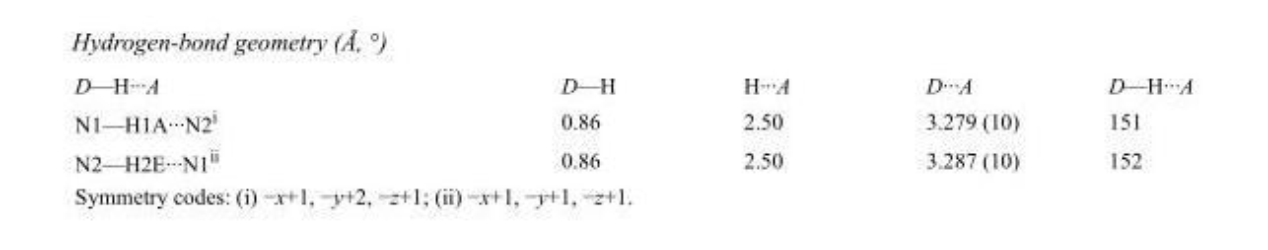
<table><tbody><tr><td>D—H···A</td><td>D—H</td><td>H···A</td><td>D···A</td><td>D—H···A</td></tr><tr><td>N1—H1A···N2<sup>i</sup></td><td>0.86</td><td>2.50</td><td>3.279 (10)</td><td>151</td></tr><tr><td>N2—H2E···N1<sup>ii</sup></td><td>0.86</td><td>2.50</td><td>3.287 (10)</td><td>152</td></tr></tbody></table>